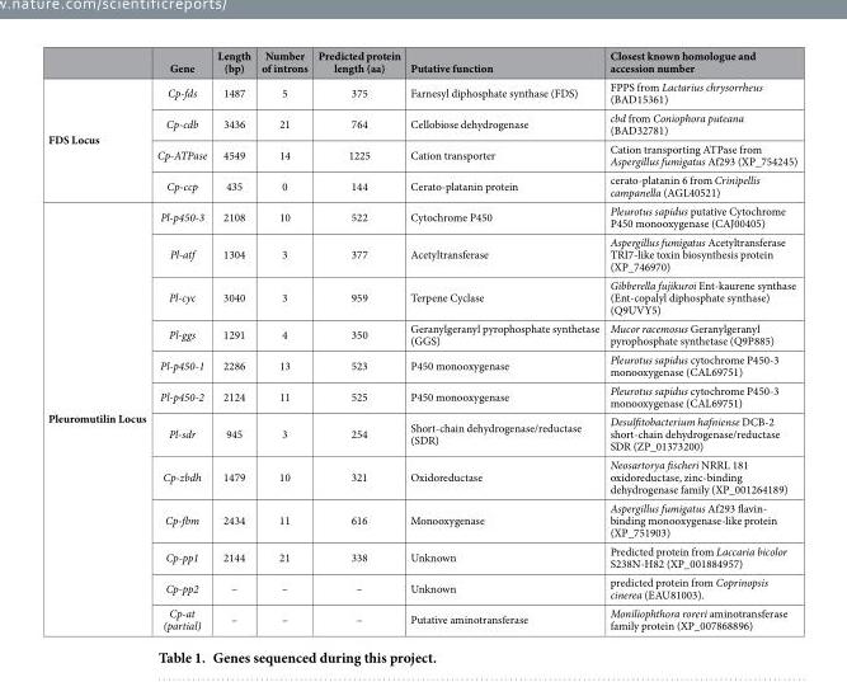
<table><thead><tr><td></td><td>Gene</td><td>Length (bp)</td><td>Number of introns</td><td>Predicted protein length (aa)</td><td>Putative function</td><td>Closest known homologue and accession number</td></tr></thead><tbody><tr><td rowspan="4">FDS Locus</td><td>Cp-fds</td><td>1487</td><td>5</td><td>375</td><td>Farnesyl diphosphate synthase (FDS)</td><td>FPPS from Lactarius chrysorrheus (BAD15361)</td></tr><tr><td>Cp-cdb</td><td>3436</td><td>21</td><td>764</td><td>Cellobiose dehydrogenase</td><td>cbd from Coniophora puteana (BAD32781)</td></tr><tr><td>Cp-ATPase</td><td>4549</td><td>14</td><td>1225</td><td>Cation transporter</td><td>Cation transporting ATPase from Aspergillus fumigatus Af293 (XP_754245)</td></tr><tr><td>Cp-ccp</td><td>435</td><td>0</td><td>144</td><td>Cerato-platanin protein</td><td>cerato-platanin 6 from Crinipellis campanella (AGL40521)</td></tr><tr><td rowspan="12">Pleuromutilin Locus</td><td>Pl-p450-3</td><td>2108</td><td>10</td><td>522</td><td>Cytochrome P450</td><td>Pleurotus sapidus putative Cytochrome P450 monooxygenase (CAJ00405)</td></tr><tr><td>Pl-atf</td><td>1304</td><td>3</td><td>377</td><td>Acetyltransferase</td><td>Aspergillus fumigatus Acetyltransferase TRI7-like toxin biosynthesis protein (XP_746970)</td></tr><tr><td>Pl-cyc</td><td>3040</td><td>3</td><td>959</td><td>Terpene Cyclase</td><td>Gibberella fujikuroi Ent-kaurene synthase (Ent-copalyl diphosphate synthase) (Q9UVY5)</td></tr><tr><td>Pl-ggs</td><td>1291</td><td>4</td><td>350</td><td>Geranylgeranyl pyrophosphate synthetase (GGS)</td><td>Mucor racemosus Geranylgeranyl pyrophosphate synthetase (Q9P885)</td></tr><tr><td>Pl-p450-1</td><td>2286</td><td>13</td><td>523</td><td>P450 monooxygenase</td><td>Pleurotus sapidus cytochrome P450-3 monooxygenase (CAL69751)</td></tr><tr><td>Pl-p450-2</td><td>2124</td><td>11</td><td>525</td><td>P450 monooxygenase</td><td>Pleurotus sapidus cytochrome P450-3 monooxygenase (CAL69751)</td></tr><tr><td>Pl-sdr</td><td>945</td><td>3</td><td>254</td><td>Short-chain dehydrogenase/reductase (SDR)</td><td>Desulfitobacterium hafniense DCB-2 short-chain dehydrogenase/reductase SDR (ZP_01373200)</td></tr><tr><td>Cp-zbdh</td><td>1479</td><td>10</td><td>321</td><td>Oxidoreductase</td><td>Neosartorya fischeri NRRL 181 oxidoreductase, zinc-binding dehydrogenase family (XP_001264189)</td></tr><tr><td>Cp-fbm</td><td>2434</td><td>11</td><td>616</td><td>Monooxygenase</td><td>Aspergillus fumigatus Af293 flavin- binding monooxygenase-like protein (XP_751903)</td></tr><tr><td>Cp-pp1</td><td>2144</td><td>21</td><td>338</td><td>Unknown</td><td>Predicted protein from Laccaria bicolor S238N-H82 (XP_001884957)</td></tr><tr><td>Cp-pp2</td><td>–</td><td>–</td><td>–</td><td>Unknown</td><td>predicted protein from Coprinopsis cinerea (EAU81003).</td></tr><tr><td>Cp-at (partial)</td><td>–</td><td>–</td><td>–</td><td>Putative aminotransferase</td><td>Moniliophthora roreri aminotransferase family protein (XP_007868896)</td></tr></tbody></table>